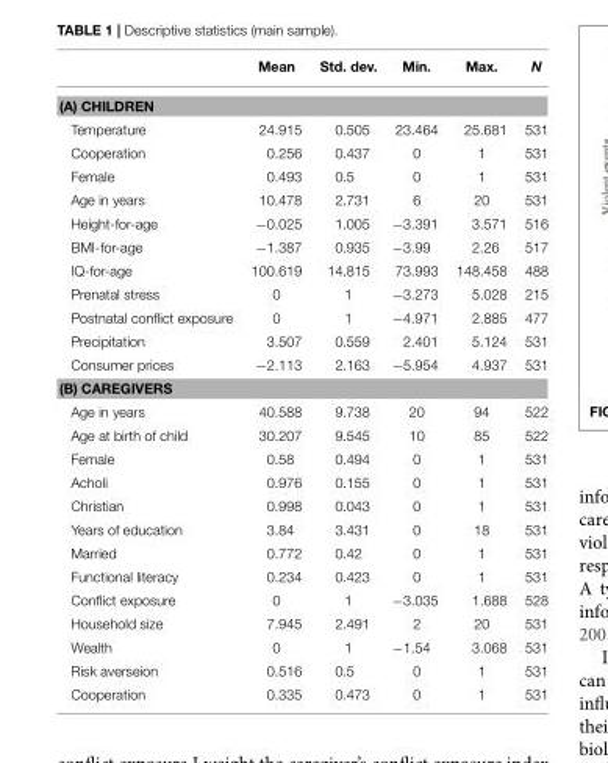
<table><thead><tr><td></td><td>Mean</td><td>Std. dev.</td><td>Min.</td><td>Max.</td><td>N</td></tr></thead><tbody><tr><td colspan="6">(A) CHILDREN</td></tr><tr><td>Temperature</td><td>24.915</td><td>0.505</td><td>23.464</td><td>25.681</td><td>531</td></tr><tr><td>Cooperation</td><td>0.256</td><td>0.437</td><td>0</td><td>1</td><td>531</td></tr><tr><td>Female</td><td>0.493</td><td>0.5</td><td>0</td><td>1</td><td>531</td></tr><tr><td>Age in years</td><td>10.478</td><td>2.731</td><td>6</td><td>20</td><td>531</td></tr><tr><td>Height-for-age</td><td>−0.025</td><td>1.005</td><td>−3.391</td><td>3.571</td><td>516</td></tr><tr><td>BMI-for-age</td><td>−1.387</td><td>0.935</td><td>−3.99</td><td>2.26</td><td>517</td></tr><tr><td>IQ-for-age</td><td>100.619</td><td>14.815</td><td>73.993</td><td>148.458</td><td>488</td></tr><tr><td>Prenatal stress</td><td>0</td><td>1</td><td>−3.273</td><td>5.028</td><td>215</td></tr><tr><td>Postnatal conflict exposure</td><td>0</td><td>1</td><td>−4.971</td><td>2.885</td><td>477</td></tr><tr><td>Precipitation</td><td>3.507</td><td>0.559</td><td>2.401</td><td>5.124</td><td>531</td></tr><tr><td>Consumer prices</td><td>−2.113</td><td>2.163</td><td>−5.954</td><td>4.937</td><td>531</td></tr><tr><td colspan="6">(B) CAREGIVERS</td></tr><tr><td>Age in years</td><td>40.588</td><td>9.738</td><td>20</td><td>94</td><td>522</td></tr><tr><td>Age at birth of child</td><td>30.207</td><td>9.545</td><td>10</td><td>85</td><td>522</td></tr><tr><td>Female</td><td>0.58</td><td>0.494</td><td>0</td><td>1</td><td>531</td></tr><tr><td>Acholi</td><td>0.976</td><td>0.155</td><td>0</td><td>1</td><td>531</td></tr><tr><td>Christian</td><td>0.998</td><td>0.043</td><td>0</td><td>1</td><td>531</td></tr><tr><td>Years of education</td><td>3.84</td><td>3.431</td><td>0</td><td>18</td><td>531</td></tr><tr><td>Married</td><td>0.772</td><td>0.42</td><td>0</td><td>1</td><td>531</td></tr><tr><td>Functional literacy</td><td>0.234</td><td>0.423</td><td>0</td><td>1</td><td>531</td></tr><tr><td>Conflict exposure</td><td>0</td><td>1</td><td>−3.035</td><td>1.688</td><td>528</td></tr><tr><td>Household size</td><td>7.945</td><td>2.491</td><td>2</td><td>20</td><td>531</td></tr><tr><td>Wealth</td><td>0</td><td>1</td><td>−1.54</td><td>3.068</td><td>531</td></tr><tr><td>Risk averseion</td><td>0.516</td><td>0.5</td><td>0</td><td>1</td><td>531</td></tr><tr><td>Cooperation</td><td>0.335</td><td>0.473</td><td>0</td><td>1</td><td>531</td></tr></tbody></table>